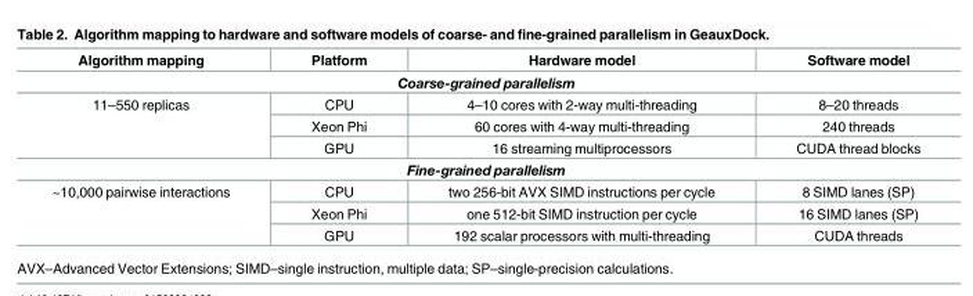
<table><thead><tr><td>Algorithm mapping</td><td>Platform</td><td>Hardware model</td><td>Software model</td></tr></thead><tbody><tr><td colspan="4">Coarse-grained parallelism</td></tr><tr><td rowspan="3">11–550 replicas</td><td>CPU</td><td>4–10 cores with 2-way multi-threading</td><td>8–20 threads</td></tr><tr><td>Xeon Phi</td><td>60 cores with 4-way multi-threading</td><td>240 threads</td></tr><tr><td>GPU</td><td>16 streaming multiprocessors</td><td>CUDA thread blocks</td></tr><tr><td colspan="4">Fine-grained parallelism</td></tr><tr><td rowspan="3">~10,000 pairwise interactions</td><td>CPU</td><td>two 256-bit AVX SIMD instructions per cycle</td><td>8 SIMD lanes (SP)</td></tr><tr><td>Xeon Phi</td><td>one 512-bit SIMD instruction per cycle</td><td>16 SIMD lanes (SP)</td></tr><tr><td>GPU</td><td>192 scalar processors with multi-threading</td><td>CUDA threads</td></tr></tbody></table>